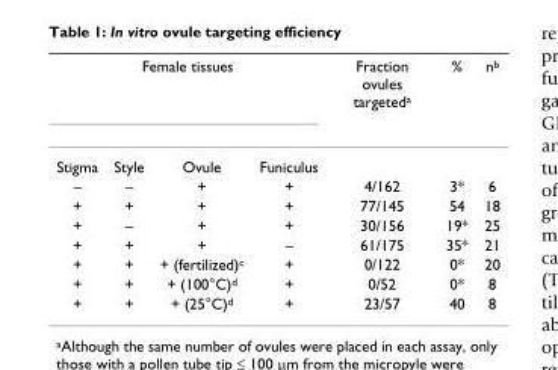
<table><thead><tr><td colspan="4">Female tissues</td><td rowspan="2">Fraction ovules targeteda</td><td rowspan="2">%</td><td rowspan="2">nb</td></tr><tr><td>Stigma</td><td>Style</td><td>Ovule</td><td>Funiculus</td></tr></thead><tbody><tr><td>–</td><td>–</td><td>+</td><td>+</td><td>4/162</td><td>3*</td><td>6</td></tr><tr><td>+</td><td>+</td><td>+</td><td>+</td><td>77/145</td><td>54</td><td>18</td></tr><tr><td>+</td><td>–</td><td>+</td><td>+</td><td>30/156</td><td>19*</td><td>25</td></tr><tr><td>+</td><td>+</td><td>+</td><td>–</td><td>61/175</td><td>35*</td><td>21</td></tr><tr><td>+</td><td>+</td><td>+ (fertilized)c</td><td>+</td><td>0/122</td><td>0*</td><td>20</td></tr><tr><td>+</td><td>+</td><td>+ (100°C)d</td><td>+</td><td>0/52</td><td>0*</td><td>8</td></tr><tr><td>+</td><td>+</td><td>+ (25°C)d</td><td>+</td><td>23/57</td><td>40</td><td>8</td></tr></tbody></table>